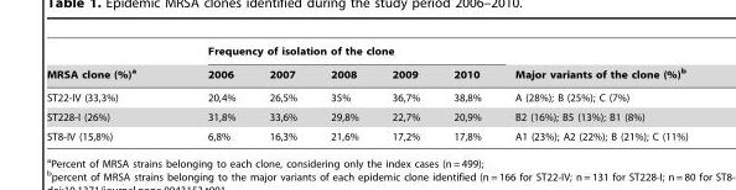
<table><thead><tr><td rowspan="2">MRSA clone (%)<sup>a</sup></td><td colspan="5">Frequency of isolation of the clone</td><td rowspan="2">Major variants of the clone (%)<sup>b</sup></td></tr><tr><td>2006</td><td>2007</td><td>2008</td><td>2009</td><td>2010</td></tr></thead><tbody><tr><td>ST22-IV (33,3%)</td><td>20,4%</td><td>26,5%</td><td>35%</td><td>36,7%</td><td>38,8%</td><td>A (28%); B (25%); C (7%)</td></tr><tr><td>ST228-I (26%)</td><td>31,8%</td><td>33,6%</td><td>29,8%</td><td>22,7%</td><td>20,9%</td><td>B2 (16%); B5 (13%); B1 (8%)</td></tr><tr><td>ST8-IV (15,8%)</td><td>6,8%</td><td>16,3%</td><td>21,6%</td><td>17,2%</td><td>17,8%</td><td>A1 (23%); A2 (22%); B (21%); C (11%)</td></tr></tbody></table>